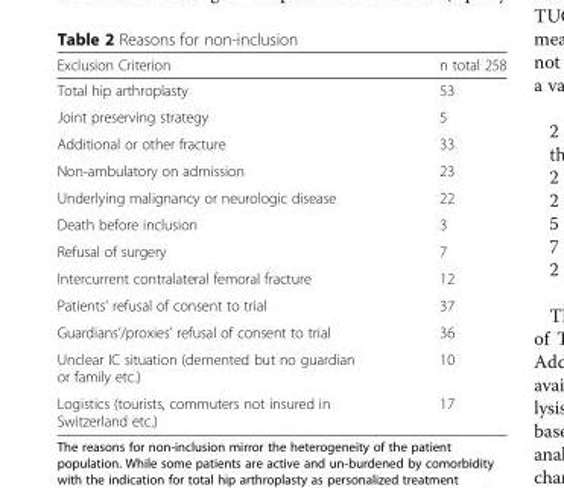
<table><thead><tr><td>Exclusion Criterion</td><td>n total 258</td></tr></thead><tbody><tr><td>Total hip arthroplasty</td><td>53</td></tr><tr><td>Joint preserving strategy</td><td>5</td></tr><tr><td>Additional or other fracture</td><td>33</td></tr><tr><td>Non-ambulatory on admission</td><td>23</td></tr><tr><td>Underlying malignancy or neurologic disease</td><td>22</td></tr><tr><td>Death before inclusion</td><td>3</td></tr><tr><td>Refusal of surgery</td><td>7</td></tr><tr><td>Intercurrent contralateral femoral fracture</td><td>12</td></tr><tr><td>Patients’ refusal of consent to trial</td><td>37</td></tr><tr><td>Guardians’/proxies’ refusal of consent to trial</td><td>36</td></tr><tr><td>Unclear IC situation (demented but no guardian or family etc.)</td><td>10</td></tr><tr><td>Logistics (tourists, commuters not insured in Switzerland etc.)</td><td>17</td></tr></tbody></table>